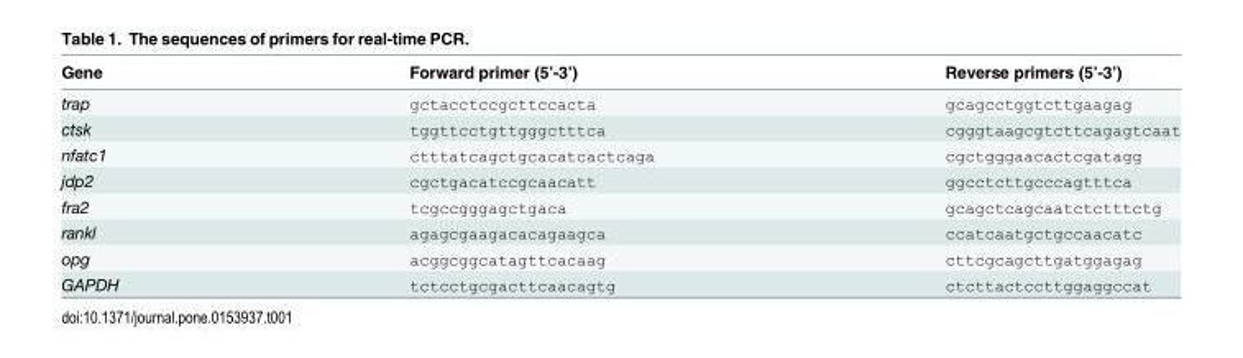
<table><thead><tr><td>Gene</td><td>Forward primer (5’-3’)</td><td>Reverse primers (5’-3’)</td></tr></thead><tbody><tr><td>trap</td><td>gctacctccgcttccacta</td><td>gcagcctggtcttgaagag</td></tr><tr><td>ctsk</td><td>tggttcctgttgggctttca</td><td>cgggtaagcgtcttcagagtcaat</td></tr><tr><td>nfatc1</td><td>ctttatcagctgcacatcactcaga</td><td>cgctgggaacactcgatagg</td></tr><tr><td>jdp2</td><td>cgctgacatccgcaacatt</td><td>ggcctcttgcccagtttca</td></tr><tr><td>fra2</td><td>tcgccgggagctgaca</td><td>gcagctcagcaatctctttctg</td></tr><tr><td>rankl</td><td>agagcgaagacacagaagca</td><td>ccatcaatgctgccaacatc</td></tr><tr><td>opg</td><td>acggcggcatagttcacaag</td><td>cttcgcagcttgatggagag</td></tr><tr><td>GAPDH</td><td>tctcctgcgacttcaacagtg</td><td>ctcttactccttggaggccat</td></tr></tbody></table>